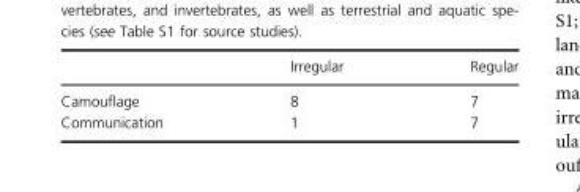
<table><thead><tr><td></td><td>Irregular</td><td>Regular</td></tr></thead><tbody><tr><td>Camouflage</td><td>8</td><td>7</td></tr><tr><td>Communication</td><td>1</td><td>7</td></tr></tbody></table>